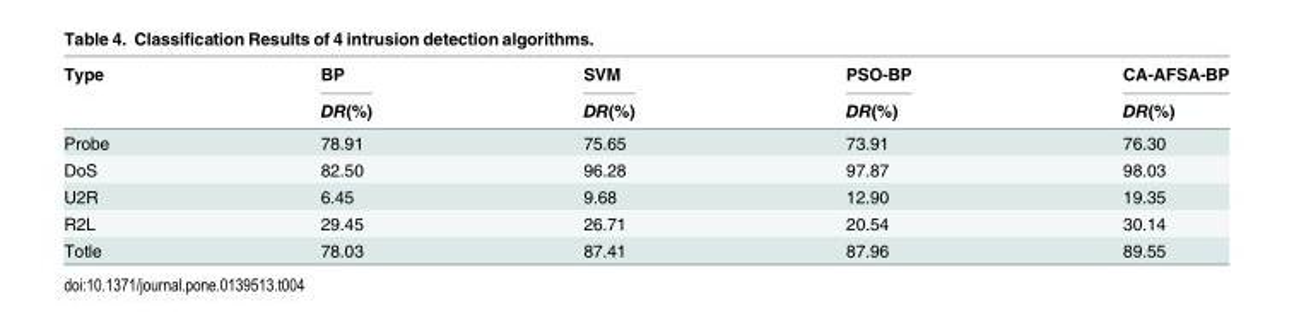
<table><thead><tr><td rowspan="2">Type</td><td rowspan="2">BP DR(%)</td><td rowspan="2">SVM DR(%)</td><td rowspan="2">PSO-BP DR(%)</td><td rowspan="2">CA-AFSA-BP DR(%)</td></tr><tr></tr></thead><tbody><tr><td>Probe</td><td>78.91</td><td>75.65</td><td>73.91</td><td>76.30</td></tr><tr><td>DoS</td><td>82.50</td><td>96.28</td><td>97.87</td><td>98.03</td></tr><tr><td>U2R</td><td>6.45</td><td>9.68</td><td>12.90</td><td>19.35</td></tr><tr><td>R2L</td><td>29.45</td><td>26.71</td><td>20.54</td><td>30.14</td></tr><tr><td>Totle</td><td>78.03</td><td>87.41</td><td>87.96</td><td>89.55</td></tr></tbody></table>